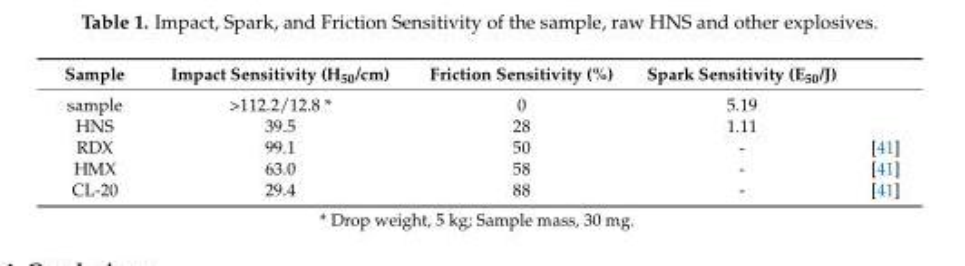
<table><thead><tr><td>Sample</td><td>Impact Sensitivity (H<sub>50</sub>/cm)</td><td>Friction Sensitivity (%)</td><td>Spark Sensitivity (E<sub>50</sub>/J)</td><td></td></tr></thead><tbody><tr><td>sample</td><td>&gt;112.2/12.8 *</td><td>0</td><td>5.19</td><td></td></tr><tr><td>HNS</td><td>39.5</td><td>28</td><td>1.11</td><td></td></tr><tr><td>RDX</td><td>99.1</td><td>50</td><td>-</td><td>[41]</td></tr><tr><td>HMX</td><td>63.0</td><td>58</td><td>-</td><td>[41]</td></tr><tr><td>CL-20</td><td>29.4</td><td>88</td><td>-</td><td>[41]</td></tr></tbody></table>